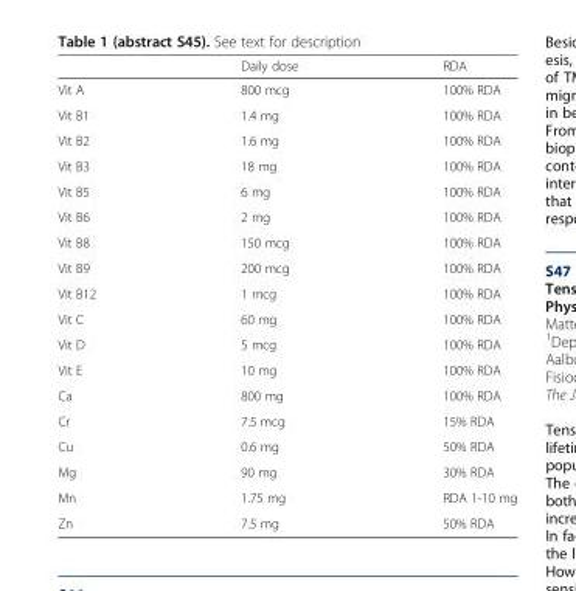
<table><thead><tr><td></td><td>Daily dose</td><td>RDA</td></tr></thead><tbody><tr><td>Vit A</td><td>800 mcg</td><td>100% RDA</td></tr><tr><td>Vit B1</td><td>1.4 mg</td><td>100% RDA</td></tr><tr><td>Vit B2</td><td>1.6 mg</td><td>100% RDA</td></tr><tr><td>Vit B3</td><td>18 mg</td><td>100% RDA</td></tr><tr><td>Vit B5</td><td>6 mg</td><td>100% RDA</td></tr><tr><td>Vit B6</td><td>2 mg</td><td>100% RDA</td></tr><tr><td>Vit B8</td><td>150 mcg</td><td>100% RDA</td></tr><tr><td>Vit B9</td><td>200 mcg</td><td>100% RDA</td></tr><tr><td>Vit B12</td><td>1 mcg</td><td>100% RDA</td></tr><tr><td>Vit C</td><td>60 mg</td><td>100% RDA</td></tr><tr><td>Vit D</td><td>5 mcg</td><td>100% RDA</td></tr><tr><td>Vit E</td><td>10 mg</td><td>100% RDA</td></tr><tr><td>Ca</td><td>800 mg</td><td>100% RDA</td></tr><tr><td>Cr</td><td>7.5 mcg</td><td>15% RDA</td></tr><tr><td>Cu</td><td>0.6 mg</td><td>50% RDA</td></tr><tr><td>Mg</td><td>90 mg</td><td>30% RDA</td></tr><tr><td>Mn</td><td>1.75 mg</td><td>RDA 1-10 mg</td></tr><tr><td>Zn</td><td>7.5 mg</td><td>50% RDA</td></tr></tbody></table>